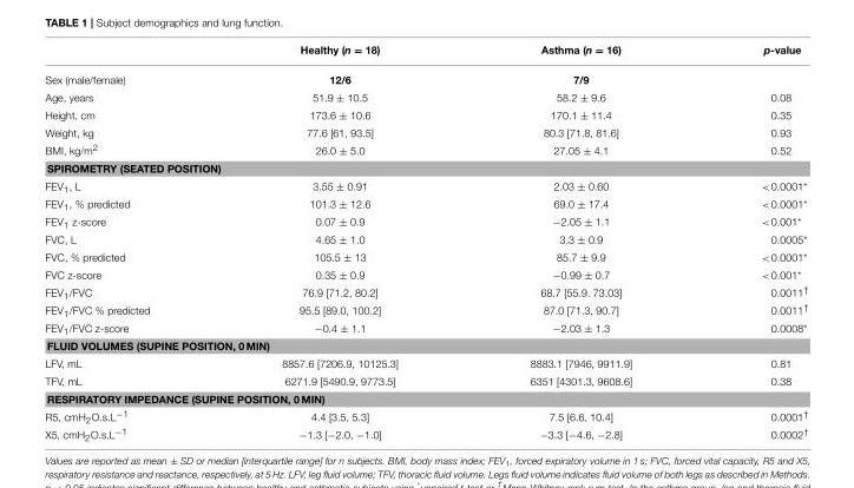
<table><thead><tr><td></td><td>Healthy (n = 18)</td><td>Asthma (n = 16)</td><td>p-value</td></tr></thead><tbody><tr><td>Sex (male/female)</td><td>12/6</td><td>7/9</td><td></td></tr><tr><td>Age, years</td><td>51.9 ± 10.5</td><td>58.2 ± 9.6</td><td>0.08</td></tr><tr><td>Height, cm</td><td>173.6 ± 10.6</td><td>170.1 ± 11.4</td><td>0.35</td></tr><tr><td>Weight, kg</td><td>77.6 [61, 93.5]</td><td>80.3 [71.8, 81.6]</td><td>0.93</td></tr><tr><td>BMI, kg/m<sup>2</sup></td><td>26.0 ± 5.0</td><td>27.05 ± 4.1</td><td>0.52</td></tr><tr><td colspan="4">SPIROMETRY (SEATED POSITION)</td></tr><tr><td>FEV<sub>1</sub>, L</td><td>3.55 ± 0.91</td><td>2.03 ± 0.60</td><td>&lt;0.0001*</td></tr><tr><td>FEV<sub>1</sub>, % predicted</td><td>101.3 ± 12.6</td><td>69.0 ± 17.4</td><td>&lt;0.0001*</td></tr><tr><td>FEV<sub>1</sub> z-score</td><td>0.07 ± 0.9</td><td>−2.05 ± 1.1</td><td>&lt;0.001*</td></tr><tr><td>FVC, L</td><td>4.65 ± 1.0</td><td>3.3 ± 0.9</td><td>0.0005*</td></tr><tr><td>FVC, % predicted</td><td>105.5 ± 13</td><td>85.7 ± 9.9</td><td>&lt;0.0001*</td></tr><tr><td>FVC z-score</td><td>0.35 ± 0.9</td><td>−0.99 ± 0.7</td><td>&lt;0.001*</td></tr><tr><td>FEV<sub>1</sub>/FVC</td><td>76.9 [71.2, 80.2]</td><td>68.7 [55.9. 73.03]</td><td>0.0011<sup>†</sup></td></tr><tr><td>FEV<sub>1</sub>/FVC % predicted</td><td>95.5 [89.0, 100.2]</td><td>87.0 [71.3, 90.7]</td><td>0.0011<sup>†</sup></td></tr><tr><td>FEV<sub>1</sub>/FVC z-score</td><td>−0.4 ± 1.1</td><td>−2.03 ± 1.3</td><td>0.0008*</td></tr><tr><td colspan="4">FLUID VOLUMES (SUPINE POSITION, 0 MIN)</td></tr><tr><td>LFV, mL</td><td>8857.6 [7206.9, 10125.3]</td><td>8883.1 [7946, 9911.9]</td><td>0.81</td></tr><tr><td>TFV, mL</td><td>6271.9 [5490.9, 9773.5]</td><td>6351 [4301.3, 9608.6]</td><td>0.38</td></tr><tr><td colspan="4">RESPIRATORY IMPEDANCE (SUPINE POSITION, 0 MIN)</td></tr><tr><td>R5, cmH<sub>2</sub>O.s.L<sup>−1</sup></td><td>4.4 [3.5, 5.3]</td><td>7.5 [6.6, 10.4]</td><td>0.0001<sup>†</sup></td></tr><tr><td>X5, cmH<sub>2</sub>O.s.L<sup>−1</sup></td><td>−1.3 [−2.0, −1.0]</td><td>−3.3 [−4.6, −2.8]</td><td>0.0002<sup>†</sup></td></tr></tbody></table>